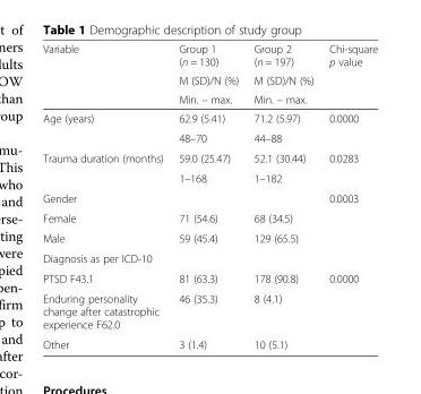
<table><thead><tr><td rowspan="3">Variable</td><td rowspan="3">Group 1 (n = 130) M (SD)/N (%) Min. – max.</td><td rowspan="3">Group 2 (n = 197) M (SD)/N (%) Min. – max.</td><td rowspan="3">Chi-square p value</td></tr><tr></tr><tr></tr></thead><tbody><tr><td rowspan="2">Age (years)</td><td>62.9 (5.41)</td><td>71.2 (5.97)</td><td rowspan="2">0.0000</td></tr><tr><td>48–70</td><td>44–88</td></tr><tr><td rowspan="2">Trauma duration (months)</td><td>59.0 (25.47)</td><td>52.1 (30.44)</td><td rowspan="2">0.0283</td></tr><tr><td>1–168</td><td>1–182</td></tr><tr><td>Gender</td><td></td><td></td><td>0.0003</td></tr><tr><td>Female</td><td>71 (54.6)</td><td>68 (34.5)</td><td></td></tr><tr><td>Male</td><td>59 (45.4)</td><td>129 (65.5)</td><td></td></tr><tr><td colspan="4">Diagnosis as per ICD-10</td></tr><tr><td>PTSD F43.1</td><td>81 (63.3)</td><td>178 (90.8)</td><td>0.0000</td></tr><tr><td>Enduring personality change after catastrophic experience F62.0</td><td>46 (35.3)</td><td>8 (4.1)</td><td></td></tr><tr><td>Other</td><td>3 (1.4)</td><td>10 (5.1)</td><td></td></tr></tbody></table>